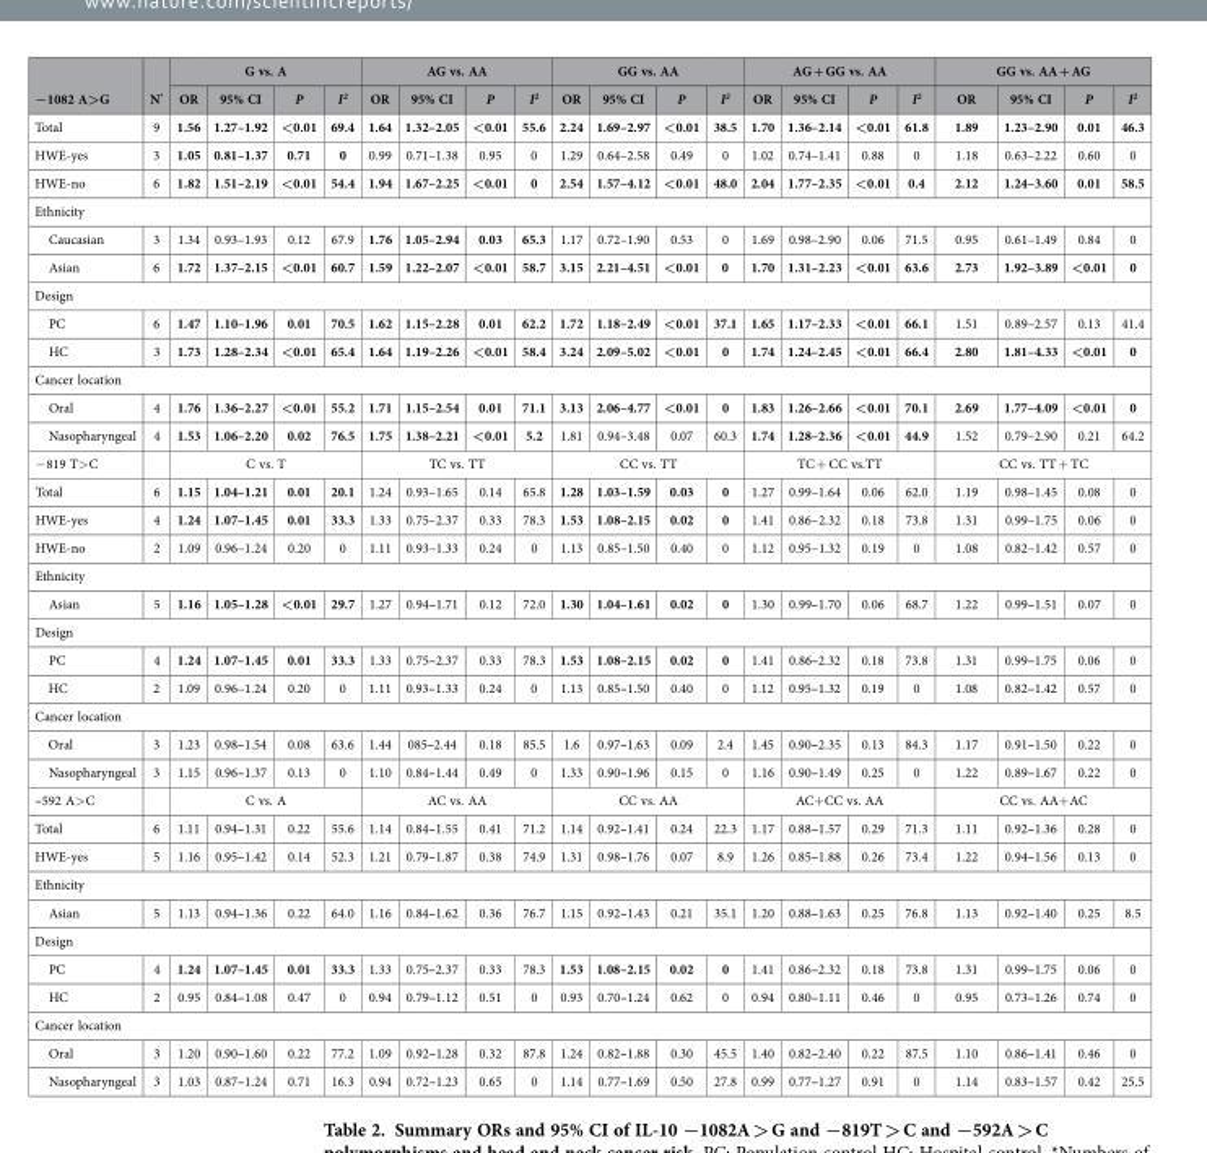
<table><thead><tr><td rowspan="2">−1082 A&gt;G</td><td rowspan="2">N*</td><td colspan="4">G vs. A</td><td colspan="4">AG vs. AA</td><td colspan="4">GG vs. AA</td><td colspan="4">AG + GG vs. AA</td><td colspan="4">GG vs. AA + AG</td></tr><tr><td>OR</td><td>95% CI</td><td>P</td><td>I<sup>2</sup></td><td>OR</td><td>95% CI</td><td>P</td><td>I<sup>2</sup></td><td>OR</td><td>95% CI</td><td>P</td><td>I<sup>2</sup></td><td>OR</td><td>95% CI</td><td>P</td><td>I<sup>2</sup></td><td>OR</td><td>95% CI</td><td>P</td><td>I<sup>2</sup></td></tr></thead><tbody><tr><td>Total</td><td>9</td><td>1.56</td><td>1.27–1.92</td><td>&lt;0.01</td><td>69.4</td><td>1.64</td><td>1.32–2.05</td><td>&lt;0.01</td><td>55.6</td><td>2.24</td><td>1.69–2.97</td><td>&lt;0.01</td><td>38.5</td><td>1.70</td><td>1.36–2.14</td><td>&lt;0.01</td><td>61.8</td><td>1.89</td><td>1.23–2.90</td><td>0.01</td><td>46.3</td></tr><tr><td>HWE-yes</td><td>3</td><td>1.05</td><td>0.81–1.37</td><td>0.71</td><td>0</td><td>0.99</td><td>0.71–1.38</td><td>0.95</td><td>0</td><td>1.29</td><td>0.64–2.58</td><td>0.49</td><td>0</td><td>1.02</td><td>0.74–1.41</td><td>0.88</td><td>0</td><td>1.18</td><td>0.63–2.22</td><td>0.60</td><td>0</td></tr><tr><td>HWE-no</td><td>6</td><td>1.82</td><td>1.51–2.19</td><td>&lt;0.01</td><td>54.4</td><td>1.94</td><td>1.67–2.25</td><td>&lt;0.01</td><td>0</td><td>2.54</td><td>1.57–4.12</td><td>&lt;0.01</td><td>48.0</td><td>2.04</td><td>1.77–2.35</td><td>&lt;0.01</td><td>0.4</td><td>2.12</td><td>1.24–3.60</td><td>0.01</td><td>58.5</td></tr><tr><td colspan="22">Ethnicity</td></tr><tr><td>Caucasian</td><td>3</td><td>1.34</td><td>0.93–1.93</td><td>0.12</td><td>67.9</td><td>1.76</td><td>1.05–2.94</td><td>0.03</td><td>65.3</td><td>1.17</td><td>0.72–1.90</td><td>0.53</td><td>0</td><td>1.69</td><td>0.98–2.90</td><td>0.06</td><td>71.5</td><td>0.95</td><td>0.61–1.49</td><td>0.84</td><td>0</td></tr><tr><td>Asian</td><td>6</td><td>1.72</td><td>1.37–2.15</td><td>&lt;0.01</td><td>60.7</td><td>1.59</td><td>1.22–2.07</td><td>&lt;0.01</td><td>58.7</td><td>3.15</td><td>2.21–4.51</td><td>&lt;0.01</td><td>0</td><td>1.70</td><td>1.31–2.23</td><td>&lt;0.01</td><td>63.6</td><td>2.73</td><td>1.92–3.89</td><td>&lt;0.01</td><td>0</td></tr><tr><td colspan="22">Design</td></tr><tr><td>PC</td><td>6</td><td>1.47</td><td>1.10–1.96</td><td>0.01</td><td>70.5</td><td>1.62</td><td>1.15–2.28</td><td>0.01</td><td>62.2</td><td>1.72</td><td>1.18–2.49</td><td>&lt;0.01</td><td>37.1</td><td>1.65</td><td>1.17–2.33</td><td>&lt;0.01</td><td>66.1</td><td>1.51</td><td>0.89–2.57</td><td>0.13</td><td>41.4</td></tr><tr><td>HC</td><td>3</td><td>1.73</td><td>1.28–2.34</td><td>&lt;0.01</td><td>65.4</td><td>1.64</td><td>1.19–2.26</td><td>&lt;0.01</td><td>58.4</td><td>3.24</td><td>2.09–5.02</td><td>&lt;0.01</td><td>0</td><td>1.74</td><td>1.24–2.45</td><td>&lt;0.01</td><td>66.4</td><td>2.80</td><td>1.81–4.33</td><td>&lt;0.01</td><td>0</td></tr><tr><td colspan="22">Cancer location</td></tr><tr><td>Oral</td><td>4</td><td>1.76</td><td>1.36–2.27</td><td>&lt;0.01</td><td>55.2</td><td>1.71</td><td>1.15–2.54</td><td>0.01</td><td>71.1</td><td>3.13</td><td>2.06–4.77</td><td>&lt;0.01</td><td>0</td><td>1.83</td><td>1.26–2.66</td><td>&lt;0.01</td><td>70.1</td><td>2.69</td><td>1.77–4.09</td><td>&lt;0.01</td><td>0</td></tr><tr><td>Nasopharyngeal</td><td>4</td><td>1.53</td><td>1.06–2.20</td><td>0.02</td><td>76.5</td><td>1.75</td><td>1.38–2.21</td><td>&lt;0.01</td><td>5.2</td><td>1.81</td><td>0.94–3.48</td><td>0.07</td><td>60.3</td><td>1.74</td><td>1.28–2.36</td><td>&lt;0.01</td><td>44.9</td><td>1.52</td><td>0.79–2.90</td><td>0.21</td><td>64.2</td></tr><tr><td>− 819 T&gt; C</td><td></td><td colspan="4">C vs. T</td><td colspan="4">TC vs. TT</td><td colspan="4">CC vs. TT</td><td colspan="4">TC + CC vs.TT</td><td colspan="4">CC vs. TT + TC</td></tr><tr><td>Total</td><td>6</td><td>1.15</td><td>1.04–1.21</td><td>0.01</td><td>20.1</td><td>1.24</td><td>0.93–1.65</td><td>0.14</td><td>65.8</td><td>1.28</td><td>1.03–1.59</td><td>0.03</td><td>0</td><td>1.27</td><td>0.99–1.64</td><td>0.06</td><td>62.0</td><td>1.19</td><td>0.98–1.45</td><td>0.08</td><td>0</td></tr><tr><td>HWE-yes</td><td>4</td><td>1.24</td><td>1.07–1.45</td><td>0.01</td><td>33.3</td><td>1.33</td><td>0.75–2.37</td><td>0.33</td><td>78.3</td><td>1.53</td><td>1.08–2.15</td><td>0.02</td><td>0</td><td>1.41</td><td>0.86–2.32</td><td>0.18</td><td>73.8</td><td>1.31</td><td>0.99–1.75</td><td>0.06</td><td>0</td></tr><tr><td>HWE-no</td><td>2</td><td>1.09</td><td>0.96–1.24</td><td>0.20</td><td>0</td><td>1.11</td><td>0.93–1.33</td><td>0.24</td><td>0</td><td>1.13</td><td>0.85–1.50</td><td>0.40</td><td>0</td><td>1.12</td><td>0.95–1.32</td><td>0.19</td><td>0</td><td>1.08</td><td>0.82–1.42</td><td>0.57</td><td>0</td></tr><tr><td colspan="22">Ethnicity</td></tr><tr><td>Asian</td><td>5</td><td>1.16</td><td>1.05–1.28</td><td>&lt;0.01</td><td>29.7</td><td>1.27</td><td>0.94–1.71</td><td>0.12</td><td>72.0</td><td>1.30</td><td>1.04–1.61</td><td>0.02</td><td>0</td><td>1.30</td><td>0.99–1.70</td><td>0.06</td><td>68.7</td><td>1.22</td><td>0.99–1.51</td><td>0.07</td><td>0</td></tr><tr><td colspan="22">Design</td></tr><tr><td>PC</td><td>4</td><td>1.24</td><td>1.07–1.45</td><td>0.01</td><td>33.3</td><td>1.33</td><td>0.75–2.37</td><td>0.33</td><td>78.3</td><td>1.53</td><td>1.08–2.15</td><td>0.02</td><td>0</td><td>1.41</td><td>0.86–2.32</td><td>0.18</td><td>73.8</td><td>1.31</td><td>0.99–1.75</td><td>0.06</td><td>0</td></tr><tr><td>HC</td><td>2</td><td>1.09</td><td>0.96–1.24</td><td>0.20</td><td>0</td><td>1.11</td><td>0.93–1.33</td><td>0.24</td><td>0</td><td>1.13</td><td>0.85–1.50</td><td>0.40</td><td>0</td><td>1.12</td><td>0.95–1.32</td><td>0.19</td><td>0</td><td>1.08</td><td>0.82–1.42</td><td>0.57</td><td>0</td></tr><tr><td colspan="22">Cancer location</td></tr><tr><td>Oral</td><td>3</td><td>1.23</td><td>0.98–1.54</td><td>0.08</td><td>63.6</td><td>1.44</td><td>085–2.44</td><td>0.18</td><td>85.5</td><td>1.6</td><td>0.97–1.63</td><td>0.09</td><td>2.4</td><td>1.45</td><td>0.90–2.35</td><td>0.13</td><td>84.3</td><td>1.17</td><td>0.91–1.50</td><td>0.22</td><td>0</td></tr><tr><td>Nasopharyngeal</td><td>3</td><td>1.15</td><td>0.96–1.37</td><td>0.13</td><td>0</td><td>1.10</td><td>0.84–1.44</td><td>0.49</td><td>0</td><td>1.33</td><td>0.90–1.96</td><td>0.15</td><td>0</td><td>1.16</td><td>0.90–1.49</td><td>0.25</td><td>0</td><td>1.22</td><td>0.89–1.67</td><td>0.22</td><td>0</td></tr><tr><td>–592 A&gt; C</td><td></td><td colspan="4">C vs. A</td><td colspan="4">AC vs. AA</td><td colspan="4">CC vs. AA</td><td colspan="4">AC+ CC vs. AA</td><td colspan="4">CC vs. AA+ AC</td></tr><tr><td>Total</td><td>6</td><td>1.11</td><td>0.94–1.31</td><td>0.22</td><td>55.6</td><td>1.14</td><td>0.84–1.55</td><td>0.41</td><td>71.2</td><td>1.14</td><td>0.92–1.41</td><td>0.24</td><td>22.3</td><td>1.17</td><td>0.88–1.57</td><td>0.29</td><td>71.3</td><td>1.11</td><td>0.92–1.36</td><td>0.28</td><td>0</td></tr><tr><td>HWE-yes</td><td>5</td><td>1.16</td><td>0.95–1.42</td><td>0.14</td><td>52.3</td><td>1.21</td><td>0.79–1.87</td><td>0.38</td><td>74.9</td><td>1.31</td><td>0.98–1.76</td><td>0.07</td><td>8.9</td><td>1.26</td><td>0.85–1.88</td><td>0.26</td><td>73.4</td><td>1.22</td><td>0.94–1.56</td><td>0.13</td><td>0</td></tr><tr><td colspan="22">Ethnicity</td></tr><tr><td>Asian</td><td>5</td><td>1.13</td><td>0.94–1.36</td><td>0.22</td><td>64.0</td><td>1.16</td><td>0.84–1.62</td><td>0.36</td><td>76.7</td><td>1.15</td><td>0.92–1.43</td><td>0.21</td><td>35.1</td><td>1.20</td><td>0.88–1.63</td><td>0.25</td><td>76.8</td><td>1.13</td><td>0.92–1.40</td><td>0.25</td><td>8.5</td></tr><tr><td colspan="22">Design</td></tr><tr><td>PC</td><td>4</td><td>1.24</td><td>1.07–1.45</td><td>0.01</td><td>33.3</td><td>1.33</td><td>0.75–2.37</td><td>0.33</td><td>78.3</td><td>1.53</td><td>1.08–2.15</td><td>0.02</td><td>0</td><td>1.41</td><td>0.86–2.32</td><td>0.18</td><td>73.8</td><td>1.31</td><td>0.99–1.75</td><td>0.06</td><td>0</td></tr><tr><td>HC</td><td>2</td><td>0.95</td><td>0.84–1.08</td><td>0.47</td><td>0</td><td>0.94</td><td>0.79–1.12</td><td>0.51</td><td>0</td><td>0.93</td><td>0.70–1.24</td><td>0.62</td><td>0</td><td>0.94</td><td>0.80–1.11</td><td>0.46</td><td>0</td><td>0.95</td><td>0.73–1.26</td><td>0.74</td><td>0</td></tr><tr><td colspan="22">Cancer location</td></tr><tr><td>Oral</td><td>3</td><td>1.20</td><td>0.90–1.60</td><td>0.22</td><td>77.2</td><td>1.09</td><td>0.92–1.28</td><td>0.32</td><td>87.8</td><td>1.24</td><td>0.82–1.88</td><td>0.30</td><td>45.5</td><td>1.40</td><td>0.82–2.40</td><td>0.22</td><td>87.5</td><td>1.10</td><td>0.86–1.41</td><td>0.46</td><td>0</td></tr><tr><td>Nasopharyngeal</td><td>3</td><td>1.03</td><td>0.87–1.24</td><td>0.71</td><td>16.3</td><td>0.94</td><td>0.72–1.23</td><td>0.65</td><td>0</td><td>1.14</td><td>0.77–1.69</td><td>0.50</td><td>27.8</td><td>0.99</td><td>0.77–1.27</td><td>0.91</td><td>0</td><td>1.14</td><td>0.83–1.57</td><td>0.42</td><td>25.5</td></tr></tbody></table>